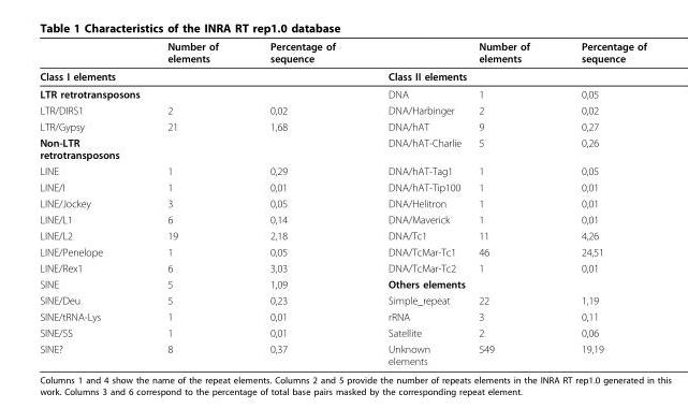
<table><thead><tr><td></td><td>Number of elements</td><td>Percentage of sequence</td><td></td><td>Number of elements</td><td>Percentage of sequence</td></tr></thead><tbody><tr><td colspan="3">Class I elements</td><td colspan="3">Class II elements</td></tr><tr><td>LTR retrotransposons</td><td></td><td></td><td>DNA</td><td>1</td><td>0,05</td></tr><tr><td>LTR/DIRS1</td><td>2</td><td>0,02</td><td>DNA/Harbinger</td><td>2</td><td>0,02</td></tr><tr><td>LTR/Gypsy</td><td>21</td><td>1,68</td><td>DNA/hAT</td><td>9</td><td>0,27</td></tr><tr><td>Non-LTR retrotransposons</td><td></td><td></td><td>DNA/hAT-Charlie</td><td>5</td><td>0,26</td></tr><tr><td>LINE</td><td>1</td><td>0,29</td><td>DNA/hAT-Tag1</td><td>1</td><td>0,05</td></tr><tr><td>LINE/I</td><td>1</td><td>0,01</td><td>DNA/hAT-Tip100</td><td>1</td><td>0,01</td></tr><tr><td>LINE/Jockey</td><td>3</td><td>0,05</td><td>DNA/Helitron</td><td>1</td><td>0,01</td></tr><tr><td>LINE/L1</td><td>6</td><td>0,14</td><td>DNA/Maverick</td><td>1</td><td>0,01</td></tr><tr><td>LINE/L2</td><td>19</td><td>2,18</td><td>DNA/Tc1</td><td>11</td><td>4,26</td></tr><tr><td>LINE/Penelope</td><td>1</td><td>0,05</td><td>DNA/TcMar-Tc1</td><td>46</td><td>24,51</td></tr><tr><td>LINE/Rex1</td><td>6</td><td>3,03</td><td>DNA/TcMar-Tc2</td><td>1</td><td>0,01</td></tr><tr><td>SINE</td><td>5</td><td>1,09</td><td>Others elements</td><td></td><td></td></tr><tr><td>SINE/Deu</td><td>5</td><td>0,23</td><td>Simple_repeat</td><td>22</td><td>1,19</td></tr><tr><td>SINE/tRNA-Lys</td><td>1</td><td>0,01</td><td>rRNA</td><td>3</td><td>0,11</td></tr><tr><td>SINE/5S</td><td>1</td><td>0,01</td><td>Satellite</td><td>2</td><td>0,06</td></tr><tr><td>SINE?</td><td>8</td><td>0,37</td><td>Unknown elements</td><td>549</td><td>19,19</td></tr></tbody></table>